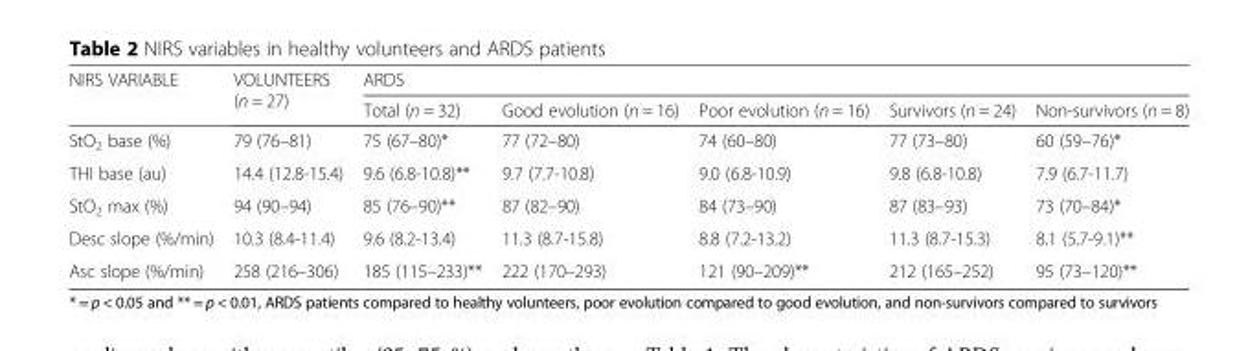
<table><thead><tr><td rowspan="2">NIRS VARIABLE</td><td rowspan="2">VOLUNTEERS (n = 27)</td><td colspan="5">ARDS</td></tr><tr><td>Total (n = 32)</td><td>Good evolution (n = 16)</td><td>Poor evolution (n = 16)</td><td>Survivors (n = 24)</td><td>Non-survivors (n = 8)</td></tr></thead><tbody><tr><td>StO<sub>2</sub> base (%)</td><td>79 (76–81)</td><td>75 (67–80)*</td><td>77 (72–80)</td><td>74 (60–80)</td><td>77 (73–80)</td><td>60 (59–76)*</td></tr><tr><td>THI base (au)</td><td>14.4 (12.8-15.4)</td><td>9.6 (6.8-10.8)**</td><td>9.7 (7.7-10.8)</td><td>9.0 (6.8-10.9)</td><td>9.8 (6.8-10.8)</td><td>7.9 (6.7-11.7)</td></tr><tr><td>StO<sub>2</sub> max (%)</td><td>94 (90–94)</td><td>85 (76–90)**</td><td>87 (82–90)</td><td>84 (73–90)</td><td>87 (83–93)</td><td>73 (70–84)*</td></tr><tr><td>Desc slope (%/min)</td><td>10.3 (8.4-11.4)</td><td>9.6 (8.2-13.4)</td><td>11.3 (8.7-15.8)</td><td>8.8 (7.2-13.2)</td><td>11.3 (8.7-15.3)</td><td>8.1 (5.7-9.1)**</td></tr><tr><td>Asc slope (%/min)</td><td>258 (216–306)</td><td>185 (115–233)**</td><td>222 (170–293)</td><td>121 (90–209)**</td><td>212 (165–252)</td><td>95 (73–120)**</td></tr></tbody></table>